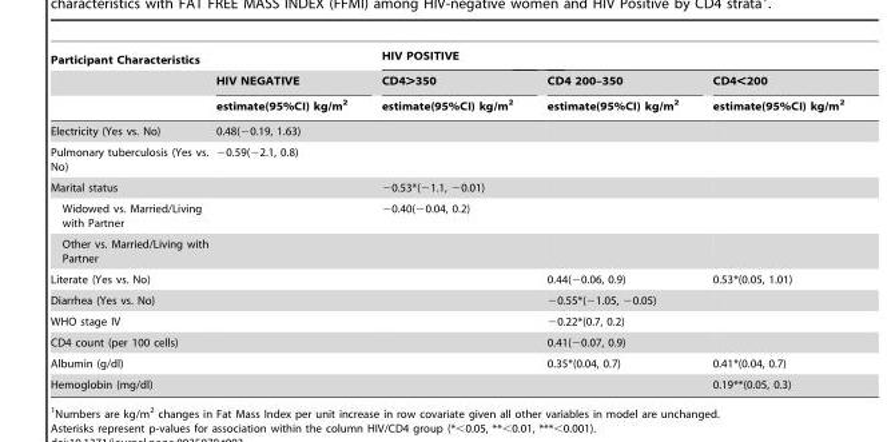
<table><thead><tr><td rowspan="3">Participant Characteristics</td><td rowspan="3">HIV NEGATIVE estimate(95%CI) kg/m<sup>2</sup></td><td rowspan="3">HIV POSITIVE CD4&gt;350 estimate(95%CI) kg/m<sup>2</sup></td><td rowspan="3">CD4 200–350 estimate(95%CI) kg/m<sup>2</sup></td><td rowspan="3">CD4&lt;200 estimate(95%CI) kg/m<sup>2</sup></td></tr><tr></tr><tr></tr></thead><tbody><tr><td>Electricity (Yes vs. No)</td><td>0.48(−0.19, 1.63)</td><td></td><td></td><td></td></tr><tr><td>Pulmonary tuberculosis (Yes vs. No)</td><td>−0.59(−2.1, 0.8)</td><td></td><td></td><td></td></tr><tr><td>Marital status</td><td></td><td>−0.53*(−1.1, −0.01)</td><td></td><td></td></tr><tr><td>Widowed vs. Married/Living with Partner</td><td></td><td>−0.40(−0.04, 0.2)</td><td></td><td></td></tr><tr><td colspan="5">Other vs. Married/Living with Partner</td></tr><tr><td>Literate (Yes vs. No)</td><td></td><td></td><td>0.44(−0.06, 0.9)</td><td>0.53*(0.05, 1.01)</td></tr><tr><td>Diarrhea (Yes vs. No)</td><td></td><td></td><td>−0.55*(−1.05, −0.05)</td><td></td></tr><tr><td>WHO stage IV</td><td></td><td></td><td>−0.22*(0.7, 0.2)</td><td></td></tr><tr><td>CD4 count (per 100 cells)</td><td></td><td></td><td>0.41(−0.07, 0.9)</td><td></td></tr><tr><td>Albumin (g/dl)</td><td></td><td></td><td>0.35*(0.04, 0.7)</td><td>0.41*(0.04, 0.7)</td></tr><tr><td>Hemoglobin (mg/dl)</td><td></td><td></td><td></td><td>0.19**(0.05, 0.3)</td></tr></tbody></table>